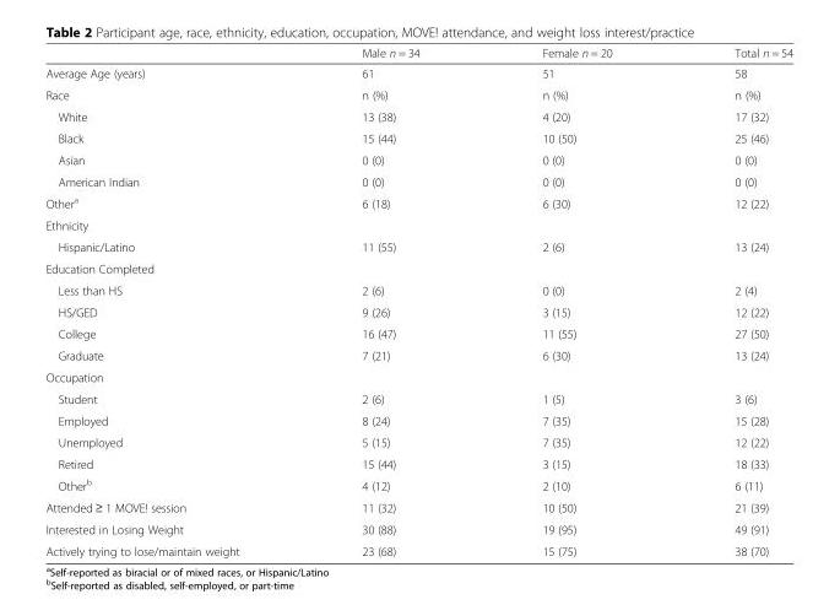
<table><thead><tr><td></td><td>Male n = 34</td><td>Female n = 20</td><td>Total n = 54</td></tr></thead><tbody><tr><td>Average Age (years)</td><td>61</td><td>51</td><td>58</td></tr><tr><td>Race</td><td>n (%)</td><td>n (%)</td><td>n (%)</td></tr><tr><td>White</td><td>13 (38)</td><td>4 (20)</td><td>17 (32)</td></tr><tr><td>Black</td><td>15 (44)</td><td>10 (50)</td><td>25 (46)</td></tr><tr><td>Asian</td><td>0 (0)</td><td>0 (0)</td><td>0 (0)</td></tr><tr><td>American Indian</td><td>0 (0)</td><td>0 (0)</td><td>0 (0)</td></tr><tr><td>Other<sup>a</sup></td><td>6 (18)</td><td>6 (30)</td><td>12 (22)</td></tr><tr><td colspan="4">Ethnicity</td></tr><tr><td>Hispanic/Latino</td><td>11 (55)</td><td>2 (6)</td><td>13 (24)</td></tr><tr><td colspan="4">Education Completed</td></tr><tr><td>Less than HS</td><td>2 (6)</td><td>0 (0)</td><td>2 (4)</td></tr><tr><td>HS/GED</td><td>9 (26)</td><td>3 (15)</td><td>12 (22)</td></tr><tr><td>College</td><td>16 (47)</td><td>11 (55)</td><td>27 (50)</td></tr><tr><td>Graduate</td><td>7 (21)</td><td>6 (30)</td><td>13 (24)</td></tr><tr><td colspan="4">Occupation</td></tr><tr><td>Student</td><td>2 (6)</td><td>1 (5)</td><td>3 (6)</td></tr><tr><td>Employed</td><td>8 (24)</td><td>7 (35)</td><td>15 (28)</td></tr><tr><td>Unemployed</td><td>5 (15)</td><td>7 (35)</td><td>12 (22)</td></tr><tr><td>Retired</td><td>15 (44)</td><td>3 (15)</td><td>18 (33)</td></tr><tr><td>Other<sup>b</sup></td><td>4 (12)</td><td>2 (10)</td><td>6 (11)</td></tr><tr><td>Attended ≥ 1 MOVE! session</td><td>11 (32)</td><td>10 (50)</td><td>21 (39)</td></tr><tr><td>Interested in Losing Weight</td><td>30 (88)</td><td>19 (95)</td><td>49 (91)</td></tr><tr><td>Actively trying to lose/maintain weight</td><td>23 (68)</td><td>15 (75)</td><td>38 (70)</td></tr></tbody></table>